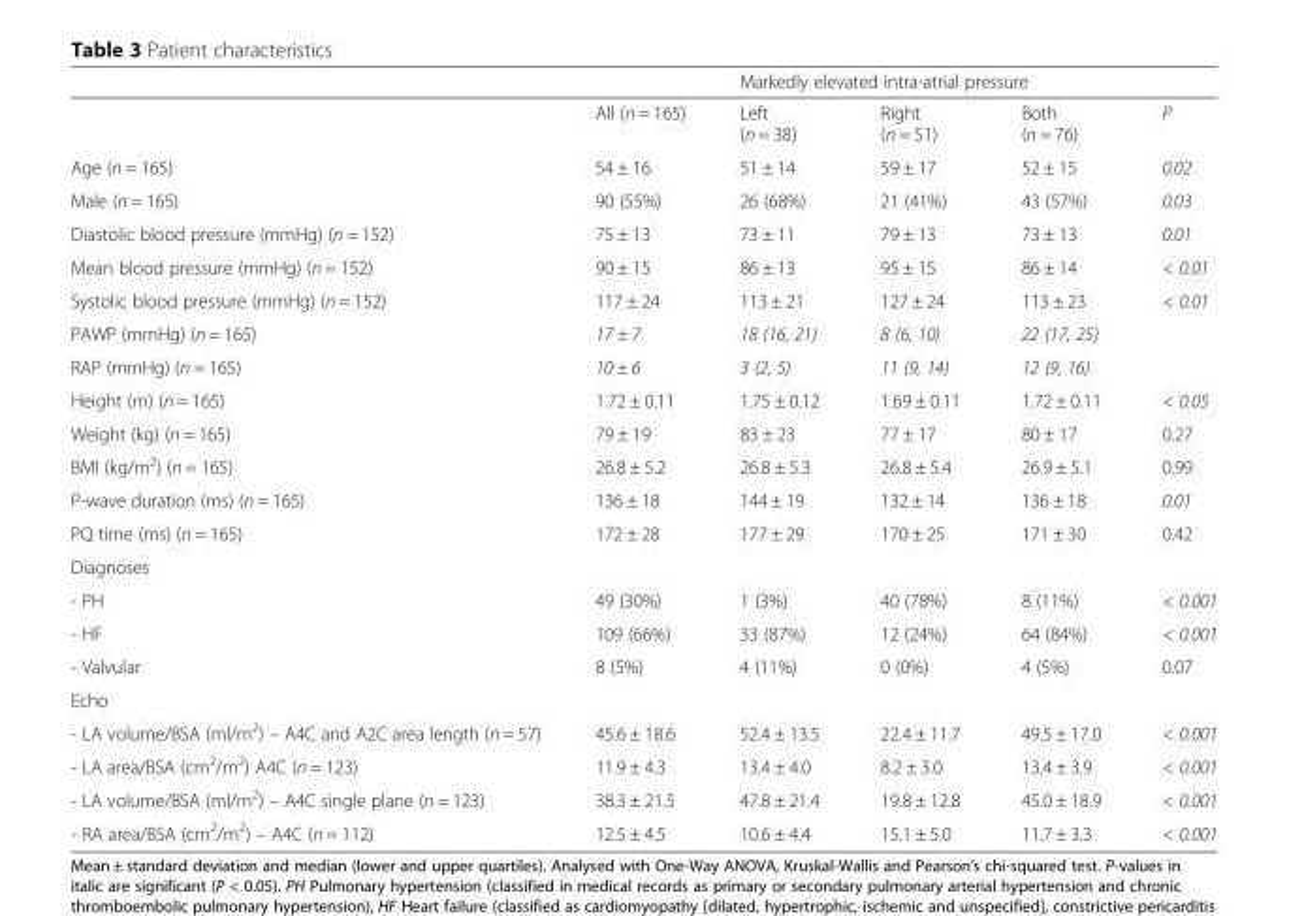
<table><thead><tr><td rowspan="2"></td><td rowspan="2">All (n = 165)</td><td colspan="3">Markedly elevated intra-atrial pressure</td><td rowspan="2">P</td></tr><tr><td>Left (n = 38)</td><td>Right (n = 51)</td><td>Both (n = 76)</td></tr></thead><tbody><tr><td>Age (n = 165)</td><td>54 ± 16</td><td>51 ± 14</td><td>59 ± 17</td><td>52 ± 15</td><td>0.02</td></tr><tr><td>Male (n = 165)</td><td>90 (55%)</td><td>26 (68%)</td><td>21 (41%)</td><td>43 (57%)</td><td>0.03</td></tr><tr><td>Diastolic blood pressure (mmHg) (n = 152)</td><td>75 ± 13</td><td>73 ± 11</td><td>79 ± 13</td><td>73 ± 13</td><td>0.01</td></tr><tr><td>Mean blood pressure (mmHg) (n = 152)</td><td>90 ± 15</td><td>86 ± 13</td><td>95 ± 15</td><td>86 ± 14</td><td>&lt; 0.01</td></tr><tr><td>Systolic blood pressure (mmHg) (n = 152)</td><td>117 ± 24</td><td>113 ± 21</td><td>127 ± 24</td><td>113 ± 23</td><td>&lt; 0.01</td></tr><tr><td>PAWP (mmHg) (n = 165)</td><td>17 ± 7</td><td>18 (16, 21)</td><td>8 (6, 10)</td><td>22 (17, 25)</td><td></td></tr><tr><td>RAP (mmHg) (n = 165)</td><td>10 ± 6</td><td>3 (2, 5)</td><td>11 (9, 14)</td><td>12 (9, 16)</td><td></td></tr><tr><td>Height (m) (n = 165)</td><td>1.72 ± 0.11</td><td>1.75 ± 0.12</td><td>1.69 ± 0.11</td><td>1.72 ± 0.11</td><td>&lt; 0.05</td></tr><tr><td>Weight (kg) (n = 165)</td><td>79 ± 19</td><td>83 ± 23</td><td>77 ± 17</td><td>80 ± 17</td><td>0.27</td></tr><tr><td>BMI (kg/m<sup>2</sup>) (n = 165)</td><td>26.8 ± 5.2</td><td>26.8 ± 5.3</td><td>26.8 ± 5.4</td><td>26.9 ± 5.1</td><td>0.99</td></tr><tr><td>P-wave duration (ms) (n = 165)</td><td>136 ± 18</td><td>144 ± 19</td><td>132 ± 14</td><td>136 ± 18</td><td>0.01</td></tr><tr><td>PQ time (ms) (n = 165)</td><td>172 ± 28</td><td>177 ± 29</td><td>170 ± 25</td><td>171 ± 30</td><td>0.42</td></tr><tr><td colspan="6">Diagnoses</td></tr><tr><td>- PH</td><td>49 (30%)</td><td>1 (3%)</td><td>40 (78%)</td><td>8 (11%)</td><td>&lt; 0.001</td></tr><tr><td>- HF</td><td>109 (66%)</td><td>33 (87%)</td><td>12 (24%)</td><td>64 (84%)</td><td>&lt; 0.001</td></tr><tr><td>- Valvular</td><td>8 (5%)</td><td>4 (11%)</td><td>0 (0%)</td><td>4 (5%)</td><td>0.07</td></tr><tr><td colspan="6">Echo</td></tr><tr><td>- LA volume/BSA (ml/m<sup>2</sup>) – A4C and A2C area length (n = 57)</td><td>45.6 ± 18.6</td><td>52.4 ± 13.5</td><td>22.4 ± 11.7</td><td>49.5 ± 17.0</td><td>&lt; 0.001</td></tr><tr><td>- LA area/BSA (cm<sup>2</sup>/m<sup>2</sup>) A4C (n = 123)</td><td>11.9 ± 4.3</td><td>13.4 ± 4.0</td><td>8.2 ± 3.0</td><td>13.4 ± 3.9</td><td>&lt; 0.001</td></tr><tr><td>- LA volume/BSA (ml/m<sup>2</sup>) – A4C single plane (n = 123)</td><td>38.3 ± 21.5</td><td>47.8 ± 21.4</td><td>19.8 ± 12.8</td><td>45.0 ± 18.9</td><td>&lt; 0.001</td></tr><tr><td>- RA area/BSA (cm<sup>2</sup>/m<sup>2</sup>) – A4C (n = 112)</td><td>12.5 ± 4.5</td><td>10.6 ± 4.4</td><td>15.1 ± 5.0</td><td>11.7 ± 3.3</td><td>&lt; 0.001</td></tr></tbody></table>